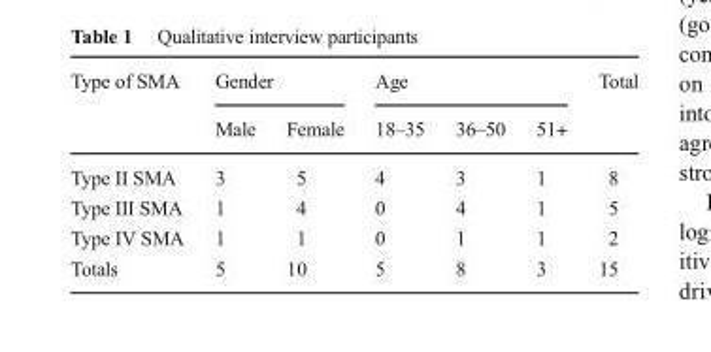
<table><thead><tr><td rowspan="2">Type of SMA</td><td colspan="2">Gender</td><td colspan="3">Age</td><td rowspan="2">Total</td></tr><tr><td>Male</td><td>Female</td><td>18–35</td><td>36–50</td><td>51+</td></tr></thead><tbody><tr><td>Type II SMA</td><td>3</td><td>5</td><td>4</td><td>3</td><td>1</td><td>8</td></tr><tr><td>Type III SMA</td><td>1</td><td>4</td><td>0</td><td>4</td><td>1</td><td>5</td></tr><tr><td>Type IV SMA</td><td>1</td><td>1</td><td>0</td><td>1</td><td>1</td><td>2</td></tr><tr><td>Totals</td><td>5</td><td>10</td><td>5</td><td>8</td><td>3</td><td>15</td></tr></tbody></table>